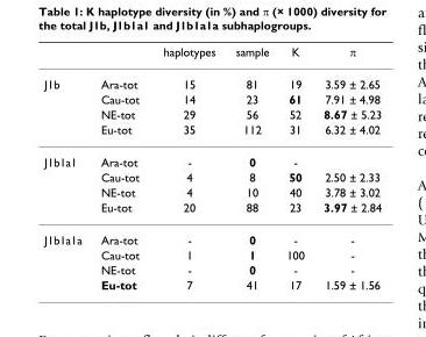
<table><thead><tr><td></td><td></td><td>haplotypes</td><td>sample</td><td>K</td><td>π</td></tr></thead><tbody><tr><td rowspan="4">J1b</td><td>Ara-tot</td><td>15</td><td>81</td><td>19</td><td>3.59 ± 2.65</td></tr><tr><td>Cau-tot</td><td>14</td><td>23</td><td>61</td><td>7.91 ± 4.98</td></tr><tr><td>NE-tot</td><td>29</td><td>56</td><td>52</td><td>8.67 ± 5.23</td></tr><tr><td>Eu-tot</td><td>35</td><td>112</td><td>31</td><td>6.32 ± 4.02</td></tr><tr><td rowspan="4">J1b1a1</td><td>Ara-tot</td><td>-</td><td>0</td><td>-</td><td></td></tr><tr><td>Cau-tot</td><td>4</td><td>8</td><td>50</td><td>2.50 ± 2.33</td></tr><tr><td>NE-tot</td><td>4</td><td>10</td><td>40</td><td>3.78 ± 3.02</td></tr><tr><td>Eu-tot</td><td>20</td><td>88</td><td>23</td><td>3.97 ± 2.84</td></tr><tr><td rowspan="4">J1b1a1a</td><td>Ara-tot</td><td>-</td><td>0</td><td>-</td><td>-</td></tr><tr><td>Cau-tot</td><td>1</td><td>1</td><td>100</td><td>-</td></tr><tr><td>NE-tot</td><td>-</td><td>0</td><td>-</td><td>-</td></tr><tr><td>Eu-tot</td><td>7</td><td>41</td><td>17</td><td>1.59 ± 1.56</td></tr></tbody></table>